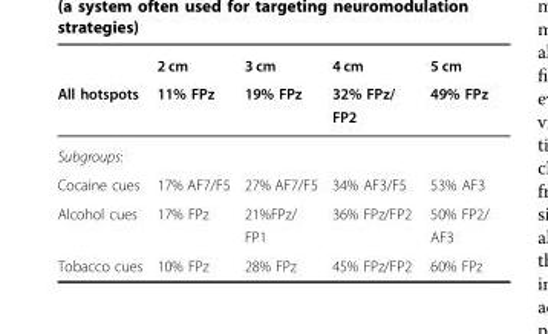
<table><thead><tr><td rowspan="2">All hotspots</td><td rowspan="2">2 cm 11% FPz</td><td rowspan="2">3 cm 19% FPz</td><td rowspan="2">4 cm 32% FPz/ FP2</td><td rowspan="2">5 cm 49% FPz</td></tr><tr></tr></thead><tbody><tr><td colspan="5">Subgroups:</td></tr><tr><td>Cocaine cues</td><td>17% AF7/F5</td><td>27% AF7/F5</td><td>34% AF3/F5</td><td>53% AF3</td></tr><tr><td>Alcohol cues</td><td>17% FPz</td><td>21%FPz/ FP1</td><td>36% FPz/FP2</td><td>50% FP2/ AF3</td></tr><tr><td>Tobacco cues</td><td>10% FPz</td><td>28% FPz</td><td>45% FPz/FP2</td><td>60% FPz</td></tr></tbody></table>